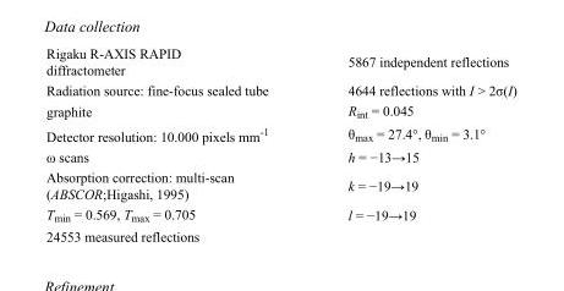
<table><tbody><tr><td>Rigaku R-AXIS RAPID diffractometer</td><td>5867 independent reflections</td></tr><tr><td>Radiation source: fine-focus sealed tube</td><td>4644 reflections with I &gt; 2σ(I)</td></tr><tr><td>graphite</td><td>R<sub>int</sub> = 0.045</td></tr><tr><td>Detector resolution: 10.000 pixels mm<sup>-1</sup></td><td>θ<sub>max</sub> = 27.4°, θ<sub>min</sub> = 3.1°</td></tr><tr><td>ω scans</td><td>h = −13→15</td></tr><tr><td>Absorption correction: multi-scan (ABSCOR;Higashi, 1995)</td><td>k = −19→19</td></tr><tr><td>T<sub>min</sub> = 0.569, T<sub>max</sub> = 0.705</td><td>l = −19→19</td></tr><tr><td>24553 measured reflections</td><td></td></tr></tbody></table>